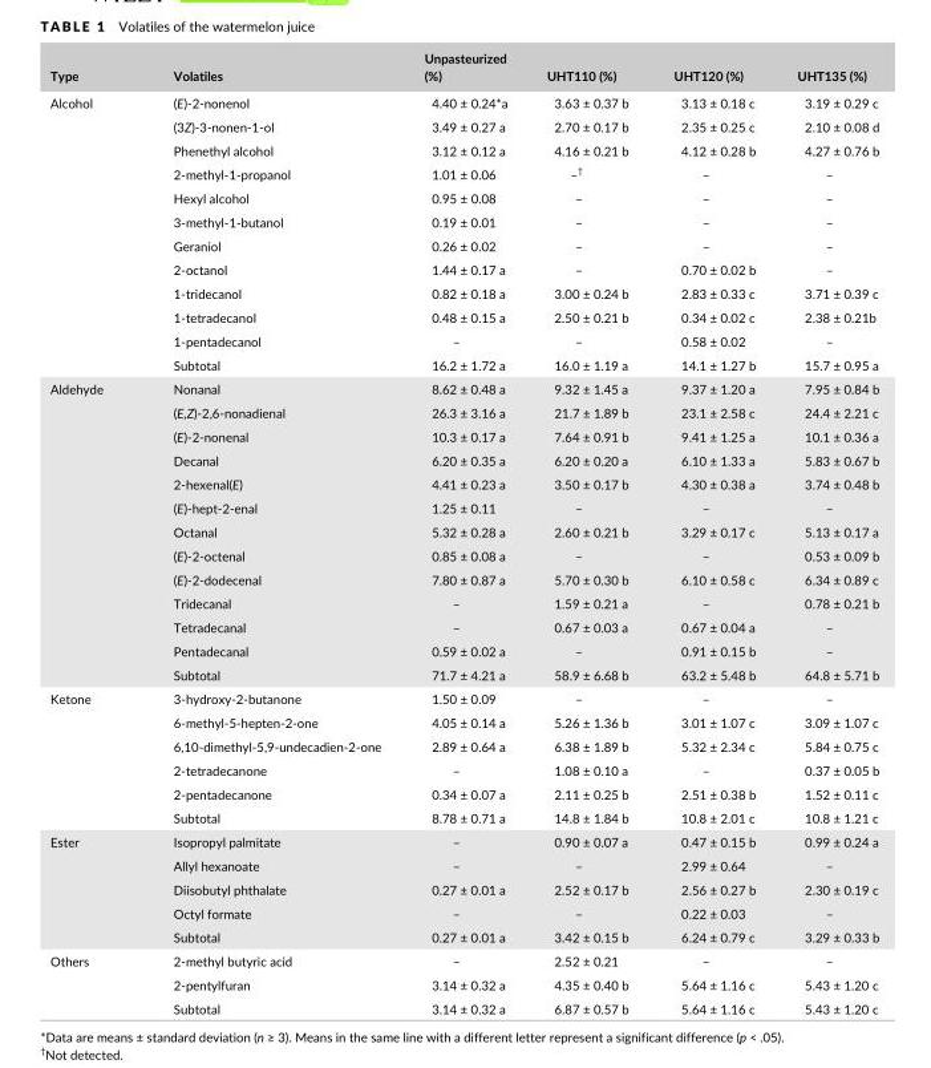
<table><thead><tr><td>Type</td><td>Volatiles</td><td>Unpasteurized (%)</td><td>UHT110 (%)</td><td>UHT120 (%)</td><td>UHT135 (%)</td></tr></thead><tbody><tr><td rowspan="12">Alcohol</td><td>(E)- 2- nonenol</td><td>4.40 ± 0.24*a</td><td>3.63 ± 0.37 b</td><td>3.13 ± 0.18 c</td><td>3.19 ± 0.29 c</td></tr><tr><td>(3Z)- 3- nonen- 1- ol</td><td>3.49 ± 0.27 a</td><td>2.70 ± 0.17 b</td><td>2.35 ± 0.25 c</td><td>2.10 ± 0.08 d</td></tr><tr><td>Phenethyl alcohol</td><td>3.12 ± 0.12 a</td><td>4.16 ± 0.21 b</td><td>4.12 ± 0.28 b</td><td>4.27 ± 0.76 b</td></tr><tr><td>2- methyl- 1- propanol</td><td>1.01 ± 0.06</td><td>–†</td><td>–</td><td>–</td></tr><tr><td>Hexyl alcohol</td><td>0.95 ± 0.08</td><td>–</td><td>–</td><td>–</td></tr><tr><td>3- methyl- 1- butanol</td><td>0.19 ± 0.01</td><td>–</td><td>–</td><td>–</td></tr><tr><td>Geraniol</td><td>0.26 ± 0.02</td><td>–</td><td>–</td><td>–</td></tr><tr><td>2- octanol</td><td>1.44 ± 0.17 a</td><td>–</td><td>0.70 ± 0.02 b</td><td>–</td></tr><tr><td>1- tridecanol</td><td>0.82 ± 0.18 a</td><td>3.00 ± 0.24 b</td><td>2.83 ± 0.33 c</td><td>3.71 ± 0.39 c</td></tr><tr><td>1- tetradecanol</td><td>0.48 ± 0.15 a</td><td>2.50 ± 0.21 b</td><td>0.34 ± 0.02 c</td><td>2.38 ± 0.21b</td></tr><tr><td>1- pentadecanol</td><td>–</td><td>–</td><td>0.58 ± 0.02</td><td>–</td></tr><tr><td>Subtotal</td><td>16.2 ± 1.72 a</td><td>16.0 ± 1.19 a</td><td>14.1 ± 1.27 b</td><td>15.7 ± 0.95 a</td></tr><tr><td rowspan="13">Aldehyde</td><td>Nonanal</td><td>8.62 ± 0.48 a</td><td>9.32 ± 1.45 a</td><td>9.37 ± 1.20 a</td><td>7.95 ± 0.84 b</td></tr><tr><td>(E,Z)- 2,6- nonadienal</td><td>26.3 ± 3.16 a</td><td>21.7 ± 1.89 b</td><td>23.1 ± 2.58 c</td><td>24.4 ± 2.21 c</td></tr><tr><td>(E)- 2- nonenal</td><td>10.3 ± 0.17 a</td><td>7.64 ± 0.91 b</td><td>9.41 ± 1.25 a</td><td>10.1 ± 0.36 a</td></tr><tr><td>Decanal</td><td>6.20 ± 0.35 a</td><td>6.20 ± 0.20 a</td><td>6.10 ± 1.33 a</td><td>5.83 ± 0.67 b</td></tr><tr><td>2- hexenal(E)</td><td>4.41 ± 0.23 a</td><td>3.50 ± 0.17 b</td><td>4.30 ± 0.38 a</td><td>3.74 ± 0.48 b</td></tr><tr><td>(E)- hept- 2- enal</td><td>1.25 ± 0.11</td><td>–</td><td>–</td><td>–</td></tr><tr><td>Octanal</td><td>5.32 ± 0.28 a</td><td>2.60 ± 0.21 b</td><td>3.29 ± 0.17 c</td><td>5.13 ± 0.17 a</td></tr><tr><td>(E)- 2- octenal</td><td>0.85 ± 0.08 a</td><td>–</td><td>–</td><td>0.53 ± 0.09 b</td></tr><tr><td>(E)- 2- dodecenal</td><td>7.80 ± 0.87 a</td><td>5.70 ± 0.30 b</td><td>6.10 ± 0.58 c</td><td>6.34 ± 0.89 c</td></tr><tr><td>Tridecanal</td><td>–</td><td>1.59 ± 0.21 a</td><td>–</td><td>0.78 ± 0.21 b</td></tr><tr><td>Tetradecanal</td><td>–</td><td>0.67 ± 0.03 a</td><td>0.67 ± 0.04 a</td><td>–</td></tr><tr><td>Pentadecanal</td><td>0.59 ± 0.02 a</td><td>–</td><td>0.91 ± 0.15 b</td><td>–</td></tr><tr><td>Subtotal</td><td>71.7 ± 4.21 a</td><td>58.9 ± 6.68 b</td><td>63.2 ± 5.48 b</td><td>64.8 ± 5.71 b</td></tr><tr><td rowspan="6">Ketone</td><td>3- hydroxy- 2- butanone</td><td>1.50 ± 0.09</td><td>–</td><td>–</td><td>–</td></tr><tr><td>6- methyl- 5- hepten- 2- one</td><td>4.05 ± 0.14 a</td><td>5.26 ± 1.36 b</td><td>3.01 ± 1.07 c</td><td>3.09 ± 1.07 c</td></tr><tr><td>6,10- dimethyl- 5,9- undecadien- 2- one</td><td>2.89 ± 0.64 a</td><td>6.38 ± 1.89 b</td><td>5.32 ± 2.34 c</td><td>5.84 ± 0.75 c</td></tr><tr><td>2- tetradecanone</td><td>–</td><td>1.08 ± 0.10 a</td><td>–</td><td>0.37 ± 0.05 b</td></tr><tr><td>2- pentadecanone</td><td>0.34 ± 0.07 a</td><td>2.11 ± 0.25 b</td><td>2.51 ± 0.38 b</td><td>1.52 ± 0.11 c</td></tr><tr><td>Subtotal</td><td>8.78 ± 0.71 a</td><td>14.8 ± 1.84 b</td><td>10.8 ± 2.01 c</td><td>10.8 ± 1.21 c</td></tr><tr><td rowspan="5">Ester</td><td>Isopropyl palmitate</td><td>–</td><td>0.90 ± 0.07 a</td><td>0.47 ± 0.15 b</td><td>0.99 ± 0.24 a</td></tr><tr><td>Allyl hexanoate</td><td>–</td><td>–</td><td>2.99 ± 0.64</td><td>–</td></tr><tr><td>Diisobutyl phthalate</td><td>0.27 ± 0.01 a</td><td>2.52 ± 0.17 b</td><td>2.56 ± 0.27 b</td><td>2.30 ± 0.19 c</td></tr><tr><td>Octyl formate</td><td>–</td><td>–</td><td>0.22 ± 0.03</td><td>–</td></tr><tr><td>Subtotal</td><td>0.27 ± 0.01 a</td><td>3.42 ± 0.15 b</td><td>6.24 ± 0.79 c</td><td>3.29 ± 0.33 b</td></tr><tr><td rowspan="3">Others</td><td>2- methyl butyric acid</td><td>–</td><td>2.52 ± 0.21</td><td>–</td><td>–</td></tr><tr><td>2- pentylfuran</td><td>3.14 ± 0.32 a</td><td>4.35 ± 0.40 b</td><td>5.64 ± 1.16 c</td><td>5.43 ± 1.20 c</td></tr><tr><td>Subtotal</td><td>3.14 ± 0.32 a</td><td>6.87 ± 0.57 b</td><td>5.64 ± 1.16 c</td><td>5.43 ± 1.20 c</td></tr></tbody></table>